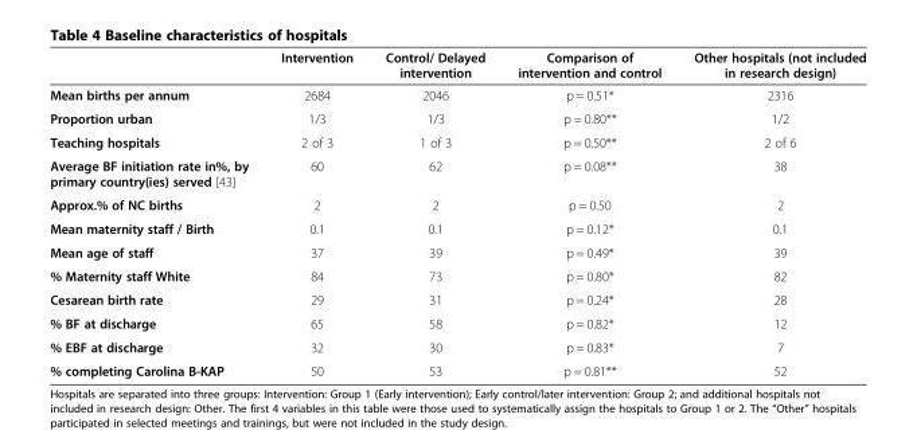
<table><thead><tr><td></td><td>Intervention</td><td>Control/ Delayed intervention</td><td>Comparison of intervention and control</td><td>Other hospitals (not included in research design)</td></tr></thead><tbody><tr><td>Mean births per annum</td><td>2684</td><td>2046</td><td>p = 0.51*</td><td>2316</td></tr><tr><td>Proportion urban</td><td>1/3</td><td>1/3</td><td>p = 0.80**</td><td>1/2</td></tr><tr><td>Teaching hospitals</td><td>2 of 3</td><td>1 of 3</td><td>p = 0.50**</td><td>2 of 6</td></tr><tr><td>Average BF initiation rate in%, by primary country(ies) served [43]</td><td>60</td><td>62</td><td>p = 0.08**</td><td>38</td></tr><tr><td>Approx.% of NC births</td><td>2</td><td>2</td><td>p = 0.50</td><td>2</td></tr><tr><td>Mean maternity staff / Birth</td><td>0.1</td><td>0.1</td><td>p = 0.12*</td><td>0.1</td></tr><tr><td>Mean age of staff</td><td>37</td><td>39</td><td>p = 0.49*</td><td>39</td></tr><tr><td>% Maternity staff White</td><td>84</td><td>73</td><td>p = 0.80*</td><td>82</td></tr><tr><td>Cesarean birth rate</td><td>29</td><td>31</td><td>p = 0.24*</td><td>28</td></tr><tr><td>% BF at discharge</td><td>65</td><td>58</td><td>p = 0.82*</td><td>12</td></tr><tr><td>% EBF at discharge</td><td>32</td><td>30</td><td>p = 0.83*</td><td>7</td></tr><tr><td>% completing Carolina B-KAP</td><td>50</td><td>53</td><td>p = 0.81**</td><td>52</td></tr></tbody></table>